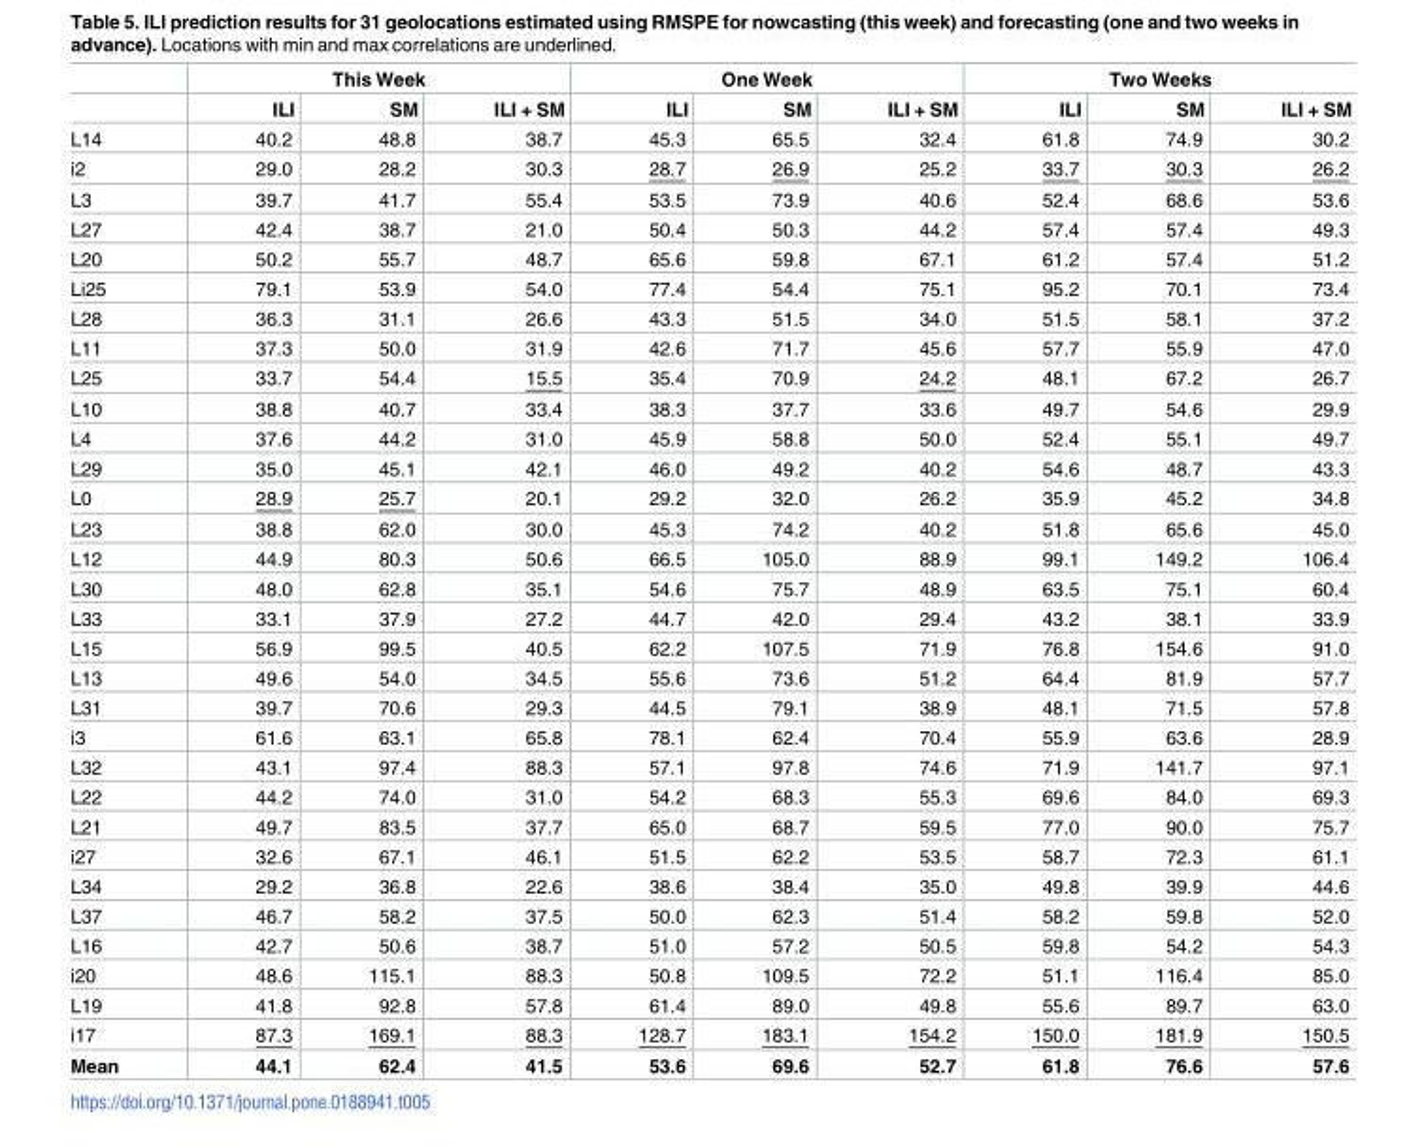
<table><thead><tr><td rowspan="2"></td><td colspan="3">This Week</td><td colspan="3">One Week</td><td colspan="3">Two Weeks</td></tr><tr><td>ILI</td><td>SM</td><td>ILI + SM</td><td>ILI</td><td>SM</td><td>ILI + SM</td><td>ILI</td><td>SM</td><td>ILI + SM</td></tr></thead><tbody><tr><td>L14</td><td>40.2</td><td>48.8</td><td>38.7</td><td>45.3</td><td>65.5</td><td>32.4</td><td>61.8</td><td>74.9</td><td>30.2</td></tr><tr><td>i2</td><td>29.0</td><td>28.2</td><td>30.3</td><td>28.7</td><td>26.9</td><td>25.2</td><td>33.7</td><td>30.3</td><td>26.2</td></tr><tr><td>L3</td><td>39.7</td><td>41.7</td><td>55.4</td><td>53.5</td><td>73.9</td><td>40.6</td><td>52.4</td><td>68.6</td><td>53.6</td></tr><tr><td>L27</td><td>42.4</td><td>38.7</td><td>21.0</td><td>50.4</td><td>50.3</td><td>44.2</td><td>57.4</td><td>57.4</td><td>49.3</td></tr><tr><td>L20</td><td>50.2</td><td>55.7</td><td>48.7</td><td>65.6</td><td>59.8</td><td>67.1</td><td>61.2</td><td>57.4</td><td>51.2</td></tr><tr><td>Li25</td><td>79.1</td><td>53.9</td><td>54.0</td><td>77.4</td><td>54.4</td><td>75.1</td><td>95.2</td><td>70.1</td><td>73.4</td></tr><tr><td>L28</td><td>36.3</td><td>31.1</td><td>26.6</td><td>43.3</td><td>51.5</td><td>34.0</td><td>51.5</td><td>58.1</td><td>37.2</td></tr><tr><td>L11</td><td>37.3</td><td>50.0</td><td>31.9</td><td>42.6</td><td>71.7</td><td>45.6</td><td>57.7</td><td>55.9</td><td>47.0</td></tr><tr><td>L25</td><td>33.7</td><td>54.4</td><td>15.5</td><td>35.4</td><td>70.9</td><td>24.2</td><td>48.1</td><td>67.2</td><td>26.7</td></tr><tr><td>L10</td><td>38.8</td><td>40.7</td><td>33.4</td><td>38.3</td><td>37.7</td><td>33.6</td><td>49.7</td><td>54.6</td><td>29.9</td></tr><tr><td>L4</td><td>37.6</td><td>44.2</td><td>31.0</td><td>45.9</td><td>58.8</td><td>50.0</td><td>52.4</td><td>55.1</td><td>49.7</td></tr><tr><td>L29</td><td>35.0</td><td>45.1</td><td>42.1</td><td>46.0</td><td>49.2</td><td>40.2</td><td>54.6</td><td>48.7</td><td>43.3</td></tr><tr><td>L0</td><td>28.9</td><td>25.7</td><td>20.1</td><td>29.2</td><td>32.0</td><td>26.2</td><td>35.9</td><td>45.2</td><td>34.8</td></tr><tr><td>L23</td><td>38.8</td><td>62.0</td><td>30.0</td><td>45.3</td><td>74.2</td><td>40.2</td><td>51.8</td><td>65.6</td><td>45.0</td></tr><tr><td>L12</td><td>44.9</td><td>80.3</td><td>50.6</td><td>66.5</td><td>105.0</td><td>88.9</td><td>99.1</td><td>149.2</td><td>106.4</td></tr><tr><td>L30</td><td>48.0</td><td>62.8</td><td>35.1</td><td>54.6</td><td>75.7</td><td>48.9</td><td>63.5</td><td>75.1</td><td>60.4</td></tr><tr><td>L33</td><td>33.1</td><td>37.9</td><td>27.2</td><td>44.7</td><td>42.0</td><td>29.4</td><td>43.2</td><td>38.1</td><td>33.9</td></tr><tr><td>L15</td><td>56.9</td><td>99.5</td><td>40.5</td><td>62.2</td><td>107.5</td><td>71.9</td><td>76.8</td><td>154.6</td><td>91.0</td></tr><tr><td>L13</td><td>49.6</td><td>54.0</td><td>34.5</td><td>55.6</td><td>73.6</td><td>51.2</td><td>64.4</td><td>81.9</td><td>57.7</td></tr><tr><td>L31</td><td>39.7</td><td>70.6</td><td>29.3</td><td>44.5</td><td>79.1</td><td>38.9</td><td>48.1</td><td>71.5</td><td>57.8</td></tr><tr><td>i3</td><td>61.6</td><td>63.1</td><td>65.8</td><td>78.1</td><td>62.4</td><td>70.4</td><td>55.9</td><td>63.6</td><td>28.9</td></tr><tr><td>L32</td><td>43.1</td><td>97.4</td><td>88.3</td><td>57.1</td><td>97.8</td><td>74.6</td><td>71.9</td><td>141.7</td><td>97.1</td></tr><tr><td>L22</td><td>44.2</td><td>74.0</td><td>31.0</td><td>54.2</td><td>68.3</td><td>55.3</td><td>69.6</td><td>84.0</td><td>69.3</td></tr><tr><td>L21</td><td>49.7</td><td>83.5</td><td>37.7</td><td>65.0</td><td>68.7</td><td>59.5</td><td>77.0</td><td>90.0</td><td>75.7</td></tr><tr><td>i27</td><td>32.6</td><td>67.1</td><td>46.1</td><td>51.5</td><td>62.2</td><td>53.5</td><td>58.7</td><td>72.3</td><td>61.1</td></tr><tr><td>L34</td><td>29.2</td><td>36.8</td><td>22.6</td><td>38.6</td><td>38.4</td><td>35.0</td><td>49.8</td><td>39.9</td><td>44.6</td></tr><tr><td>L37</td><td>46.7</td><td>58.2</td><td>37.5</td><td>50.0</td><td>62.3</td><td>51.4</td><td>58.2</td><td>59.8</td><td>52.0</td></tr><tr><td>L16</td><td>42.7</td><td>50.6</td><td>38.7</td><td>51.0</td><td>57.2</td><td>50.5</td><td>59.8</td><td>54.2</td><td>54.3</td></tr><tr><td>i20</td><td>48.6</td><td>115.1</td><td>88.3</td><td>50.8</td><td>109.5</td><td>72.2</td><td>51.1</td><td>116.4</td><td>85.0</td></tr><tr><td>L19</td><td>41.8</td><td>92.8</td><td>57.8</td><td>61.4</td><td>89.0</td><td>49.8</td><td>55.6</td><td>89.7</td><td>63.0</td></tr><tr><td>i17</td><td>87.3</td><td>169.1</td><td>88.3</td><td>128.7</td><td>183.1</td><td>154.2</td><td>150.0</td><td>181.9</td><td>150.5</td></tr><tr><td>Mean</td><td>44.1</td><td>62.4</td><td>41.5</td><td>53.6</td><td>69.6</td><td>52.7</td><td>61.8</td><td>76.6</td><td>57.6</td></tr></tbody></table>